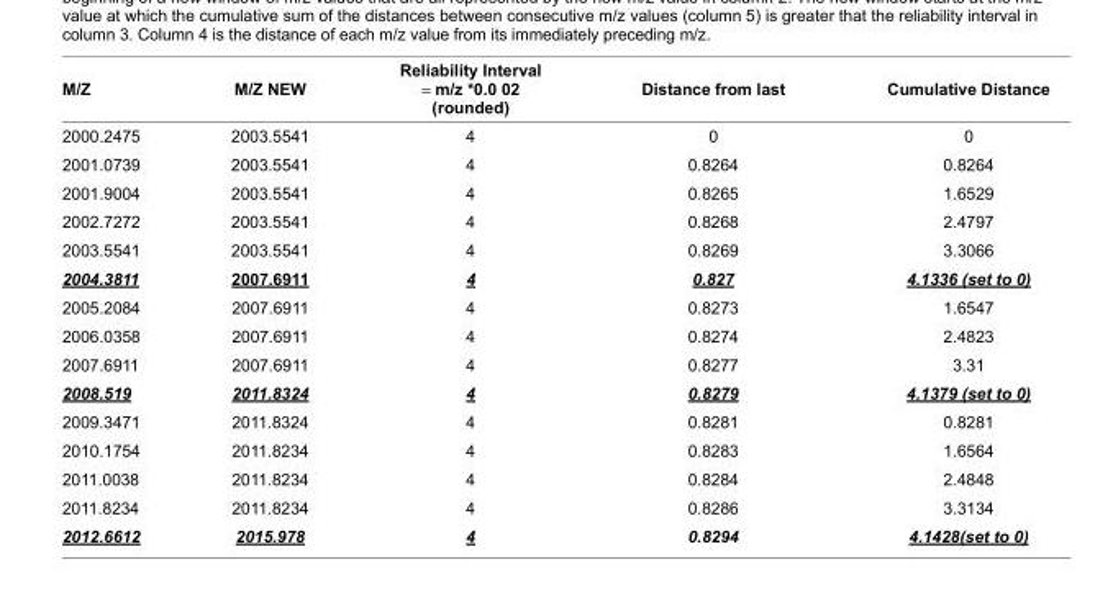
<table><thead><tr><td>M/Z</td><td>M/Z NEW</td><td>Reliability Interval = m/z *0.0 02 (rounded)</td><td>Distance from last</td><td>Cumulative Distance</td></tr></thead><tbody><tr><td>2000.2475</td><td>2003.5541</td><td>4</td><td>0</td><td>0</td></tr><tr><td>2001.0739</td><td>2003.5541</td><td>4</td><td>0.8264</td><td>0.8264</td></tr><tr><td>2001.9004</td><td>2003.5541</td><td>4</td><td>0.8265</td><td>1.6529</td></tr><tr><td>2002.7272</td><td>2003.5541</td><td>4</td><td>0.8268</td><td>2.4797</td></tr><tr><td>2003.5541</td><td>2003.5541</td><td>4</td><td>0.8269</td><td>3.3066</td></tr><tr><td>2004.3811</td><td>2007.6911</td><td>4</td><td>0.827</td><td>4.1336 (set to 0)</td></tr><tr><td>2005.2084</td><td>2007.6911</td><td>4</td><td>0.8273</td><td>1.6547</td></tr><tr><td>2006.0358</td><td>2007.6911</td><td>4</td><td>0.8274</td><td>2.4823</td></tr><tr><td>2007.6911</td><td>2007.6911</td><td>4</td><td>0.8277</td><td>3.31</td></tr><tr><td>2008.519</td><td>2011.8324</td><td>4</td><td>0.8279</td><td>4.1379 (set to 0)</td></tr><tr><td>2009.3471</td><td>2011.8324</td><td>4</td><td>0.8281</td><td>0.8281</td></tr><tr><td>2010.1754</td><td>2011.8234</td><td>4</td><td>0.8283</td><td>1.6564</td></tr><tr><td>2011.0038</td><td>2011.8234</td><td>4</td><td>0.8284</td><td>2.4848</td></tr><tr><td>2011.8234</td><td>2011.8234</td><td>4</td><td>0.8286</td><td>3.3134</td></tr><tr><td>2012.6612</td><td>2015.978</td><td>4</td><td>0.8294</td><td>4.1428(set to 0)</td></tr></tbody></table>